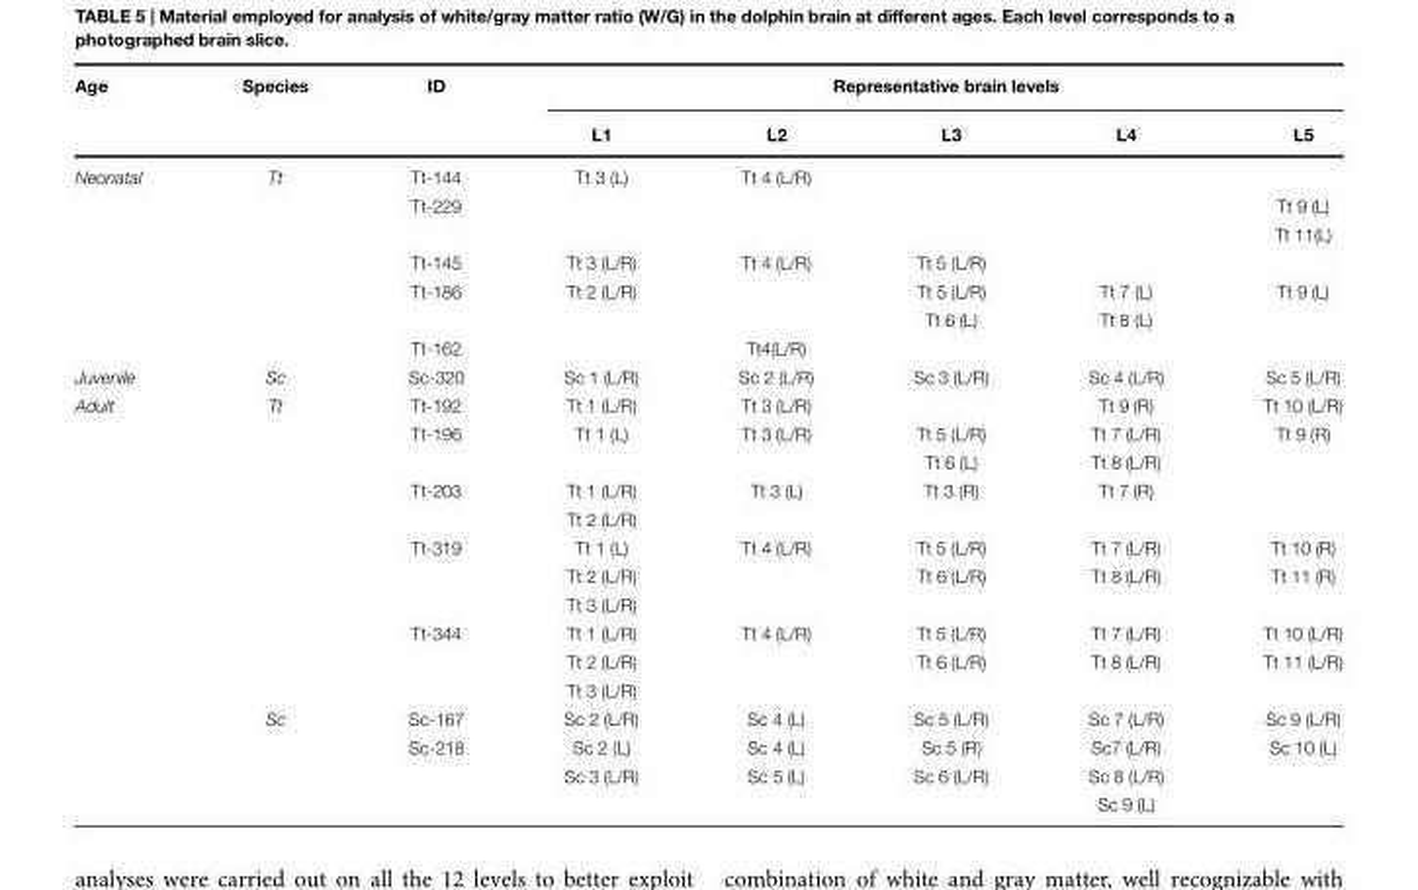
<table><thead><tr><td rowspan="2">Age</td><td rowspan="2">Species</td><td rowspan="2">ID</td><td colspan="5">Representative brain levels</td></tr><tr><td>L1</td><td>L2</td><td>L3</td><td>L4</td><td>L5</td></tr></thead><tbody><tr><td rowspan="7">Neonatal</td><td>Tt</td><td>Tt-144</td><td>Tt 3 (L)</td><td>Tt 4 (L/R)</td><td></td><td></td><td></td></tr><tr><td></td><td>Tt-229</td><td></td><td></td><td></td><td></td><td>Tt 9 (L)</td></tr><tr><td></td><td></td><td></td><td></td><td></td><td></td><td>Tt 11(L)</td></tr><tr><td></td><td>Tt-145</td><td>Tt 3 (L/R)</td><td>Tt 4 (L/R)</td><td>Tt 5 (L/R)</td><td></td><td></td></tr><tr><td></td><td>Tt-186</td><td>Tt 2 (L/R)</td><td></td><td>Tt 5 (L/R)</td><td>Tt 7 (L)</td><td>Tt 9 (L)</td></tr><tr><td></td><td></td><td></td><td></td><td>Tt 6 (L)</td><td>Tt 8 (L)</td><td></td></tr><tr><td></td><td>Tt-162</td><td></td><td>Tt4(L/R)</td><td></td><td></td><td></td></tr><tr><td>Juvenile</td><td>Sc</td><td>Sc-320</td><td>Sc 1 (L/R)</td><td>Sc 2 (L/R)</td><td>Sc 3 (L/R)</td><td>Sc 4 (L/R)</td><td>Sc 5 (L/R)</td></tr><tr><td rowspan="15">Adult</td><td>Tt</td><td>Tt-192</td><td>Tt 1 (L/R)</td><td>Tt 3 (L/R)</td><td></td><td>Tt 9 (R)</td><td>Tt 10 (L/R)</td></tr><tr><td></td><td>Tt-196</td><td>Tt 1 (L)</td><td>Tt 3 (L/R)</td><td>Tt 5 (L/R)</td><td>Tt 7 (L/R)</td><td>Tt 9 (R)</td></tr><tr><td></td><td></td><td></td><td></td><td>Tt 6 (L)</td><td>Tt 8 (L/R)</td><td></td></tr><tr><td></td><td>Tt-203</td><td>Tt 1 (L/R)</td><td>Tt 3 (L)</td><td>Tt 3 (R)</td><td>Tt 7 (R)</td><td></td></tr><tr><td></td><td></td><td>Tt 2 (L/R)</td><td></td><td></td><td></td><td></td></tr><tr><td></td><td>Tt-319</td><td>Tt 1 (L)</td><td>Tt 4 (L/R)</td><td>Tt 5 (L/R)</td><td>Tt 7 (L/R)</td><td>Tt 10 (R)</td></tr><tr><td></td><td></td><td>Tt 2 (L/R)</td><td></td><td>Tt 6 (L/R)</td><td>Tt 8 (L/R)</td><td>Tt 11 (R)</td></tr><tr><td></td><td></td><td>Tt 3 (L/R)</td><td></td><td></td><td></td><td></td></tr><tr><td></td><td>Tt-344</td><td>Tt 1 (L/R)</td><td>Tt 4 (L/R)</td><td>Tt 5 (L/R)</td><td>Tt 7 (L/R)</td><td>Tt 10 (L/R)</td></tr><tr><td></td><td></td><td>Tt 2 (L/R)</td><td></td><td>Tt 6 (L/R)</td><td>Tt 8 (L/R)</td><td>Tt 11 (L/R)</td></tr><tr><td></td><td></td><td>Tt 3 (L/R)</td><td></td><td></td><td></td><td></td></tr><tr><td>Sc</td><td>Sc-167</td><td>Sc 2 (L/R)</td><td>Sc 4 (L)</td><td>Sc 5 (L/R)</td><td>Sc 7 (L/R)</td><td>Sc 9 (L/R)</td></tr><tr><td></td><td>Sc-218</td><td>Sc 2 (L)</td><td>Sc 4 (L)</td><td>Sc 5 (R)</td><td>Sc7 (L/R)</td><td>Sc 10 (L)</td></tr><tr><td></td><td></td><td>Sc 3 (L/R)</td><td>Sc 5 (L)</td><td>Sc 6 (L/R)</td><td>Sc 8 (L/R)</td><td></td></tr><tr><td></td><td></td><td></td><td></td><td></td><td>Sc 9 (L)</td><td></td></tr></tbody></table>